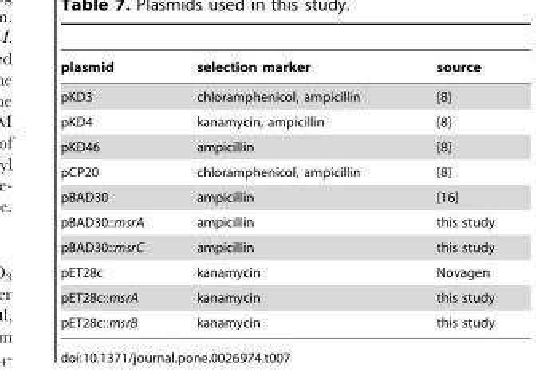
<table><thead><tr><td>plasmid</td><td>selection marker</td><td>source</td></tr></thead><tbody><tr><td>pKD3</td><td>chloramphenicol, ampicillin</td><td>[8]</td></tr><tr><td>pKD4</td><td>kanamycin, ampicillin</td><td>[8]</td></tr><tr><td>pKD46</td><td>ampicillin</td><td>[8]</td></tr><tr><td>pCP20</td><td>chloramphenicol, ampicillin</td><td>[8]</td></tr><tr><td>pBAD30</td><td>ampicillin</td><td>[16]</td></tr><tr><td>pBAD30::msrA</td><td>ampicillin</td><td>this study</td></tr><tr><td>pBAD30::msrC</td><td>ampicillin</td><td>this study</td></tr><tr><td>pET28c</td><td>kanamycin</td><td>Novagen</td></tr><tr><td>pET28c::msrA</td><td>kanamycin</td><td>this study</td></tr><tr><td>pET28c::msrB</td><td>kanamycin</td><td>this study</td></tr></tbody></table>